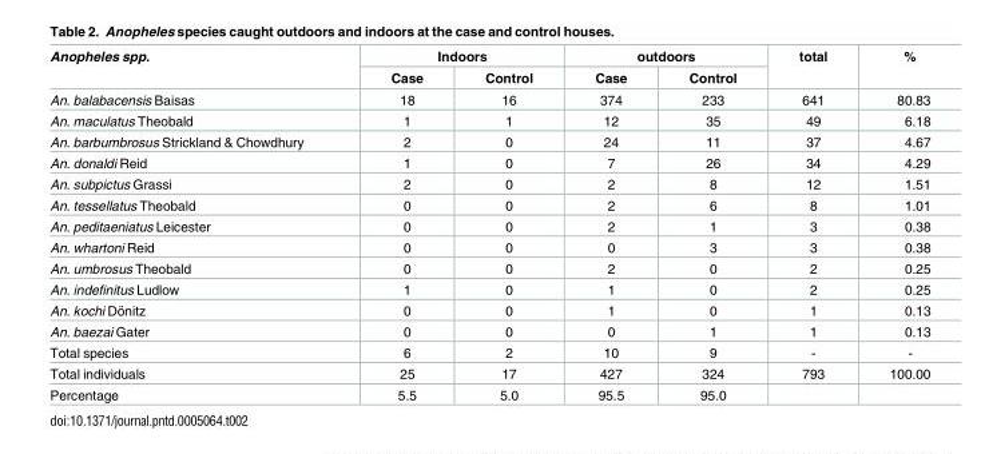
<table><thead><tr><td rowspan="2">Anopheles spp.</td><td colspan="2">Indoors</td><td colspan="2">outdoors</td><td rowspan="2">total</td><td rowspan="2">%</td></tr><tr><td>Case</td><td>Control</td><td>Case</td><td>Control</td></tr></thead><tbody><tr><td>An. balabacensis Baisas</td><td>18</td><td>16</td><td>374</td><td>233</td><td>641</td><td>80.83</td></tr><tr><td>An. maculatus Theobald</td><td>1</td><td>1</td><td>12</td><td>35</td><td>49</td><td>6.18</td></tr><tr><td>An. barbumbrosus Strickland &amp; Chowdhury</td><td>2</td><td>0</td><td>24</td><td>11</td><td>37</td><td>4.67</td></tr><tr><td>An. donaldi Reid</td><td>1</td><td>0</td><td>7</td><td>26</td><td>34</td><td>4.29</td></tr><tr><td>An. subpictus Grassi</td><td>2</td><td>0</td><td>2</td><td>8</td><td>12</td><td>1.51</td></tr><tr><td>An. tessellatus Theobald</td><td>0</td><td>0</td><td>2</td><td>6</td><td>8</td><td>1.01</td></tr><tr><td>An. peditaeniatus Leicester</td><td>0</td><td>0</td><td>2</td><td>1</td><td>3</td><td>0.38</td></tr><tr><td>An. whartoni Reid</td><td>0</td><td>0</td><td>0</td><td>3</td><td>3</td><td>0.38</td></tr><tr><td>An. umbrosus Theobald</td><td>0</td><td>0</td><td>2</td><td>0</td><td>2</td><td>0.25</td></tr><tr><td>An. indefinitus Ludlow</td><td>1</td><td>0</td><td>1</td><td>0</td><td>2</td><td>0.25</td></tr><tr><td>An. kochi Do¨nitz</td><td>0</td><td>0</td><td>1</td><td>0</td><td>1</td><td>0.13</td></tr><tr><td>An. baezai Gater</td><td>0</td><td>0</td><td>0</td><td>1</td><td>1</td><td>0.13</td></tr><tr><td>Total species</td><td>6</td><td>2</td><td>10</td><td>9</td><td>-</td><td>-</td></tr><tr><td>Total individuals</td><td>25</td><td>17</td><td>427</td><td>324</td><td>793</td><td>100.00</td></tr><tr><td>Percentage</td><td>5.5</td><td>5.0</td><td>95.5</td><td>95.0</td><td></td><td></td></tr></tbody></table>